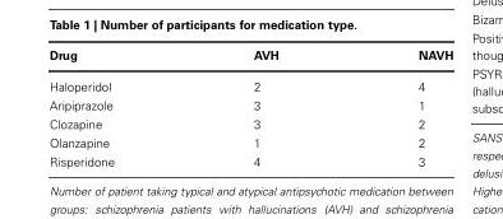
<table><thead><tr><td>Drug</td><td>AVH</td><td>NAVH</td></tr></thead><tbody><tr><td>Haloperidol</td><td>2</td><td>4</td></tr><tr><td>Aripiprazole</td><td>3</td><td>1</td></tr><tr><td>Clozapine</td><td>3</td><td>2</td></tr><tr><td>Olanzapine</td><td>1</td><td>2</td></tr><tr><td>Risperidone</td><td>4</td><td>3</td></tr></tbody></table>